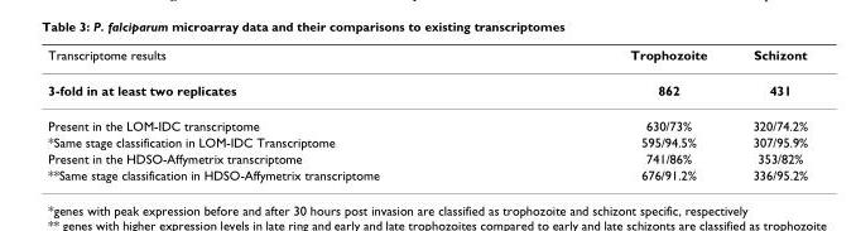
<table><thead><tr><td>Transcriptome results</td><td>Trophozoite</td><td>Schizont</td></tr></thead><tbody><tr><td>3-fold in at least two replicates</td><td>862</td><td>431</td></tr><tr><td>Present in the LOM-IDC transcriptome</td><td>630/73%</td><td>320/74.2%</td></tr><tr><td>*Same stage classification in LOM-IDC Transcriptome</td><td>595/94.5%</td><td>307/95.9%</td></tr><tr><td>Present in the HDSO-Affymetrix transcriptome</td><td>741/86%</td><td>353/82%</td></tr><tr><td>**Same stage classification in HDSO-Affymetrix transcriptome</td><td>676/91.2%</td><td>336/95.2%</td></tr></tbody></table>